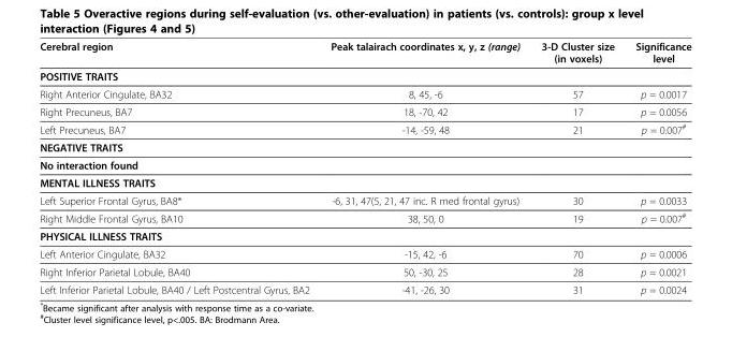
<table><thead><tr><td>Cerebral region</td><td>Peak talairach coordinates x, y, z (range)</td><td>3-D Cluster size (in voxels)</td><td>Significance level</td></tr></thead><tbody><tr><td colspan="4">POSITIVE TRAITS</td></tr><tr><td>Right Anterior Cingulate, BA32</td><td>8, 45, -6</td><td>57</td><td>p = 0.0017</td></tr><tr><td>Right Precuneus, BA7</td><td>18, -70, 42</td><td>17</td><td>p = 0.0056</td></tr><tr><td>Left Precuneus, BA7</td><td>-14, -59, 48</td><td>21</td><td>p = 0.007<sup>#</sup></td></tr><tr><td colspan="4">NEGATIVE TRAITS</td></tr><tr><td colspan="4">No interaction found</td></tr><tr><td colspan="4">MENTAL ILLNESS TRAITS</td></tr><tr><td>Left Superior Frontal Gyrus, BA8*</td><td>-6, 31, 47(5, 21, 47 inc. R med frontal gyrus)</td><td>30</td><td>p = 0.0033</td></tr><tr><td>Right Middle Frontal Gyrus, BA10</td><td>38, 50, 0</td><td>19</td><td>p = 0.007<sup>#</sup></td></tr><tr><td colspan="4">PHYSICAL ILLNESS TRAITS</td></tr><tr><td>Left Anterior Cingulate, BA32</td><td>-15, 42, -6</td><td>70</td><td>p = 0.0006</td></tr><tr><td>Right Inferior Parietal Lobule, BA40</td><td>50, -30, 25</td><td>28</td><td>p = 0.0021</td></tr><tr><td>Left Inferior Parietal Lobule, BA40 / Left Postcentral Gyrus, BA2</td><td>-41, -26, 30</td><td>31</td><td>p = 0.0024</td></tr></tbody></table>